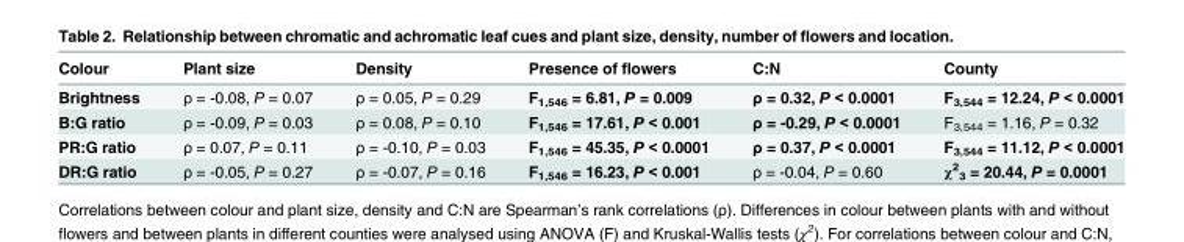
<table><thead><tr><td>Colour</td><td>Plant size</td><td>Density</td><td>Presence of flowers</td><td>C:N</td><td>County</td></tr></thead><tbody><tr><td>Brightness</td><td>ρ = -0.08, P = 0.07</td><td>ρ = 0.05, P = 0.29</td><td>F<sub>1,546</sub> = 6.81, P = 0.009</td><td>ρ = 0.32, P &lt; 0.0001</td><td>F<sub>3,544</sub> = 12.24, P &lt; 0.0001</td></tr><tr><td>B:G ratio</td><td>ρ = -0.09, P = 0.03</td><td>ρ = 0.08, P = 0.10</td><td>F<sub>1,546</sub> = 17.61, P &lt; 0.001</td><td>ρ = -0.29, P &lt; 0.0001</td><td>F<sub>3,544</sub> = 1.16, P = 0.32</td></tr><tr><td>PR:G ratio</td><td>ρ = 0.07, P = 0.11</td><td>ρ = -0.10, P = 0.03</td><td>F<sub>1,546</sub> = 45.35, P &lt; 0.0001</td><td>ρ = 0.37, P &lt; 0.0001</td><td>F<sub>3,544</sub> = 11.12, P &lt; 0.0001</td></tr><tr><td>DR:G ratio</td><td>ρ = -0.05, P = 0.27</td><td>ρ = -0.07, P = 0.16</td><td>F<sub>1,546</sub> = 16.23, P &lt; 0.001</td><td>ρ = -0.04, P = 0.60</td><td>χ<sup>2</sup> <sub>3</sub> = 20.44, P = 0.0001</td></tr></tbody></table>